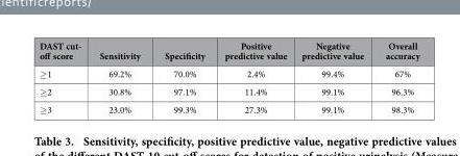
<table><thead><tr><td>DAST cut- off score</td><td>Sensitivity</td><td>Specificity</td><td>Positive predictive value</td><td>Negative predictive value</td><td>Overall accuracy</td></tr></thead><tbody><tr><td>≥ 1</td><td>69.2%</td><td>70.0%</td><td>2.4%</td><td>99.4%</td><td>67%</td></tr><tr><td>≥ 2</td><td>30.8%</td><td>97.1%</td><td>11.4%</td><td>99.1%</td><td>96.3%</td></tr><tr><td>≥ 3</td><td>23.0%</td><td>99.3%</td><td>27.3%</td><td>99.1%</td><td>98.3%</td></tr></tbody></table>